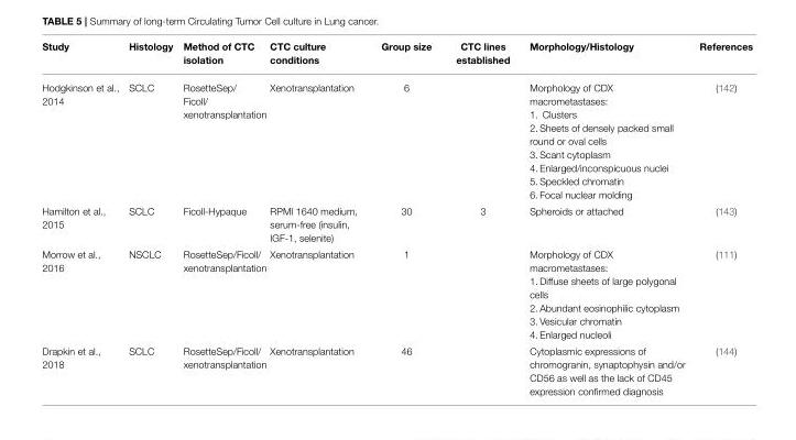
<table><thead><tr><td>Study</td><td>Histology</td><td>Method of CTC isolation</td><td>CTC culture conditions</td><td>Group size</td><td>CTC lines established</td><td>Morphology/Histology</td><td>References</td></tr></thead><tbody><tr><td>Hodgkinson et al., 2014</td><td>SCLC</td><td>RosetteSep/ Ficoll/ xenotransplantation</td><td>Xenotransplantation</td><td>6</td><td></td><td>Morphology of CDX macrometastases: 1. Clusters 2. Sheets of densely packed small round or oval cells 3. Scant cytoplasm 4. Enlarged/inconspicuous nuclei 5. Speckled chromatin 6. Focal nuclear molding</td><td>(142)</td></tr><tr><td>Hamilton et al., 2015</td><td>SCLC</td><td>Ficoll-Hypaque</td><td>RPMI 1640 medium, serum-free (insulin, IGF-1, selenite)</td><td>30</td><td>3</td><td>Spheroids or attached</td><td>(143)</td></tr><tr><td>Morrow et al., 2016</td><td>NSCLC</td><td>RosetteSep/Ficoll/ xenotransplantation</td><td>Xenotransplantation</td><td>1</td><td></td><td>Morphology of CDX macrometastases: 1. Diffuse sheets of large polygonal cells 2. Abundant eosinophilic cytoplasm 3. Vesicular chromatin 4. Enlarged nucleoli</td><td>(111)</td></tr><tr><td>Drapkin et al., 2018</td><td>SCLC</td><td>RosetteSep/Ficoll/ xenotransplantation</td><td>Xenotransplantation</td><td>46</td><td></td><td>Cytoplasmic expressions of chromogranin, synaptophysin and/or CD56 as well as the lack of CD45 expression confirmed diagnosis</td><td>(144)</td></tr></tbody></table>